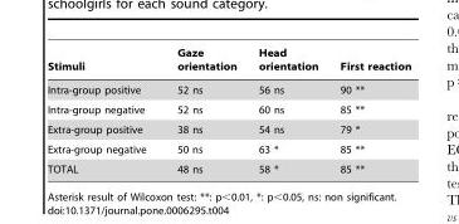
<table><thead><tr><td>Stimuli</td><td>Gaze orientation</td><td>Head orientation</td><td>First reaction</td></tr></thead><tbody><tr><td>Intra-group positive</td><td>52 ns</td><td>56 ns</td><td>90 **</td></tr><tr><td>Intra-group negative</td><td>52 ns</td><td>60 ns</td><td>85 **</td></tr><tr><td>Extra-group positive</td><td>38 ns</td><td>54 ns</td><td>79 *</td></tr><tr><td>Extra-group negative</td><td>50 ns</td><td>63 *</td><td>85 **</td></tr><tr><td>TOTAL</td><td>48 ns</td><td>58 *</td><td>85 **</td></tr></tbody></table>